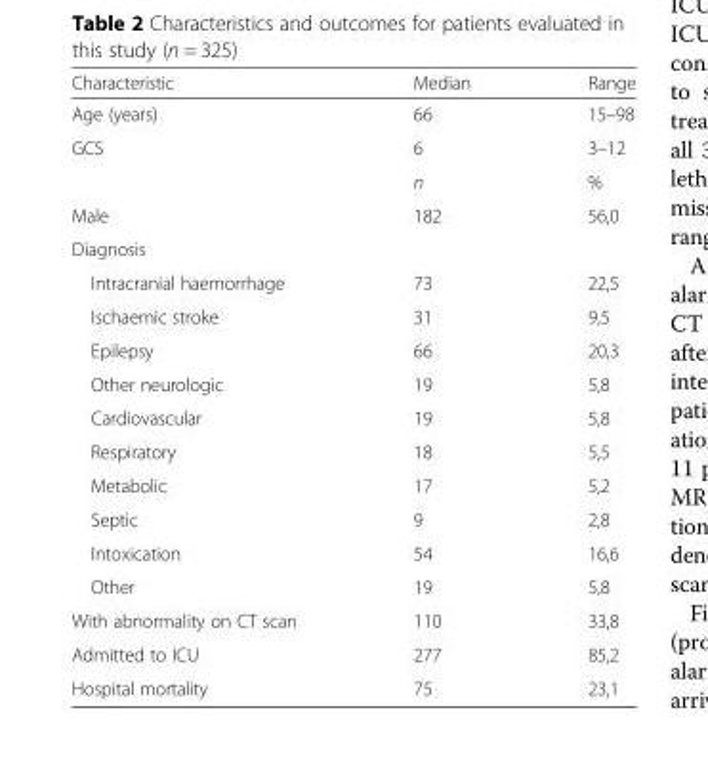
<table><thead><tr><td>Characteristic</td><td>Median</td><td>Range</td></tr></thead><tbody><tr><td>Age (years)</td><td>66</td><td>15–98</td></tr><tr><td rowspan="2">GCS</td><td>6</td><td>3–12</td></tr><tr><td>n</td><td>%</td></tr><tr><td>Male</td><td>182</td><td>56,0</td></tr><tr><td colspan="3">Diagnosis</td></tr><tr><td>Intracranial haemorrhage</td><td>73</td><td>22,5</td></tr><tr><td>Ischaemic stroke</td><td>31</td><td>9,5</td></tr><tr><td>Epilepsy</td><td>66</td><td>20,3</td></tr><tr><td>Other neurologic</td><td>19</td><td>5,8</td></tr><tr><td>Cardiovascular</td><td>19</td><td>5,8</td></tr><tr><td>Respiratory</td><td>18</td><td>5,5</td></tr><tr><td>Metabolic</td><td>17</td><td>5,2</td></tr><tr><td>Septic</td><td>9</td><td>2,8</td></tr><tr><td>Intoxication</td><td>54</td><td>16,6</td></tr><tr><td>Other</td><td>19</td><td>5,8</td></tr><tr><td>With abnormality on CT scan</td><td>110</td><td>33,8</td></tr><tr><td>Admitted to ICU</td><td>277</td><td>85,2</td></tr><tr><td>Hospital mortality</td><td>75</td><td>23,1</td></tr></tbody></table>